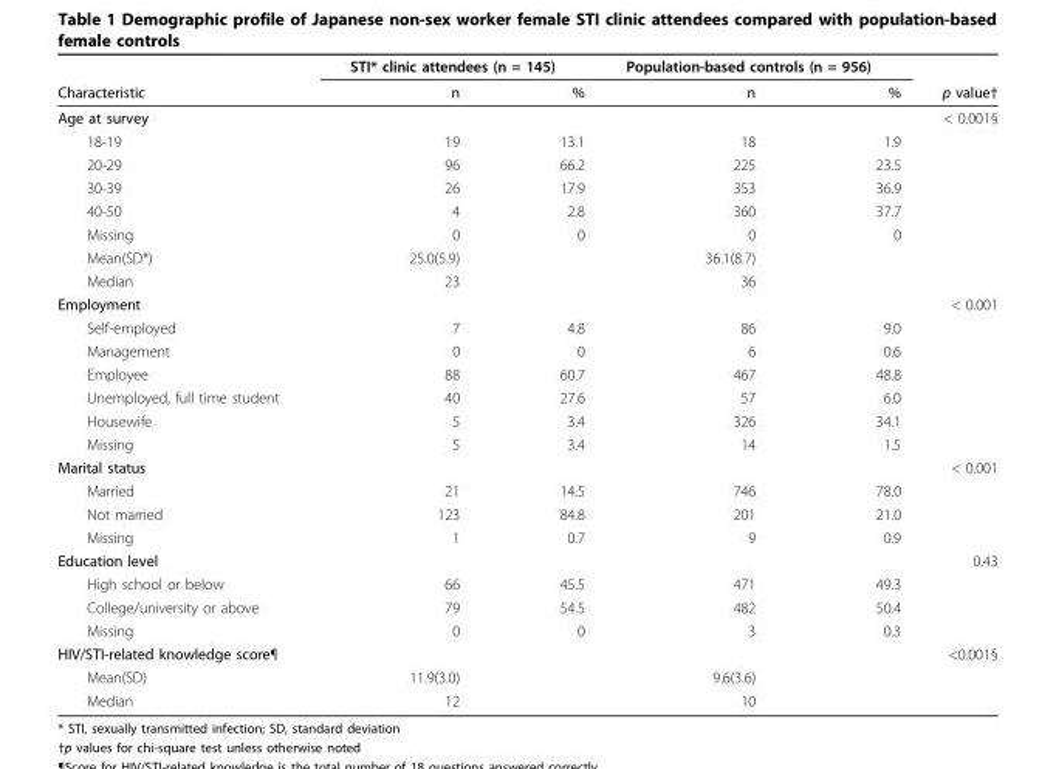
<table><thead><tr><td rowspan="2">Characteristic</td><td colspan="2">STI* clinic attendees (n = 145)</td><td colspan="2">Population-based controls (n = 956)</td><td rowspan="2">p value†</td></tr><tr><td>n</td><td>%</td><td>n</td><td>%</td></tr></thead><tbody><tr><td>Age at survey</td><td></td><td></td><td></td><td></td><td>&lt; 0.001§</td></tr><tr><td>18-19</td><td>19</td><td>13.1</td><td>18</td><td>1.9</td><td></td></tr><tr><td>20-29</td><td>96</td><td>66.2</td><td>225</td><td>23.5</td><td></td></tr><tr><td>30-39</td><td>26</td><td>17.9</td><td>353</td><td>36.9</td><td></td></tr><tr><td>40-50</td><td>4</td><td>2.8</td><td>360</td><td>37.7</td><td></td></tr><tr><td>Missing</td><td>0</td><td>0</td><td>0</td><td>0</td><td></td></tr><tr><td>Mean(SD*)</td><td>25.0(5.9)</td><td></td><td>36.1(8.7)</td><td></td><td></td></tr><tr><td>Median</td><td>23</td><td></td><td>36</td><td></td><td></td></tr><tr><td>Employment</td><td></td><td></td><td></td><td></td><td>&lt; 0.001</td></tr><tr><td>Self-employed</td><td>7</td><td>4.8</td><td>86</td><td>9.0</td><td></td></tr><tr><td>Management</td><td>0</td><td>0</td><td>6</td><td>0.6</td><td></td></tr><tr><td>Employee</td><td>88</td><td>60.7</td><td>467</td><td>48.8</td><td></td></tr><tr><td>Unemployed, full time student</td><td>40</td><td>27.6</td><td>57</td><td>6.0</td><td></td></tr><tr><td>Housewife</td><td>5</td><td>3.4</td><td>326</td><td>34.1</td><td></td></tr><tr><td>Missing</td><td>5</td><td>3.4</td><td>14</td><td>1.5</td><td></td></tr><tr><td>Marital status</td><td></td><td></td><td></td><td></td><td>&lt; 0.001</td></tr><tr><td>Married</td><td>21</td><td>14.5</td><td>746</td><td>78.0</td><td></td></tr><tr><td>Not married</td><td>123</td><td>84.8</td><td>201</td><td>21.0</td><td></td></tr><tr><td>Missing</td><td>1</td><td>0.7</td><td>9</td><td>0.9</td><td></td></tr><tr><td>Education level</td><td></td><td></td><td></td><td></td><td>0.43</td></tr><tr><td>High school or below</td><td>66</td><td>45.5</td><td>471</td><td>49.3</td><td></td></tr><tr><td>College/university or above</td><td>79</td><td>54.5</td><td>482</td><td>50.4</td><td></td></tr><tr><td>Missing</td><td>0</td><td>0</td><td>3</td><td>0.3</td><td></td></tr><tr><td>HIV/STI-related knowledge score¶</td><td></td><td></td><td></td><td></td><td>&lt;0.001§</td></tr><tr><td>Mean(SD)</td><td>11.9(3.0)</td><td></td><td>9.6(3.6)</td><td></td><td></td></tr><tr><td>Median</td><td>12</td><td></td><td>10</td><td></td><td></td></tr></tbody></table>